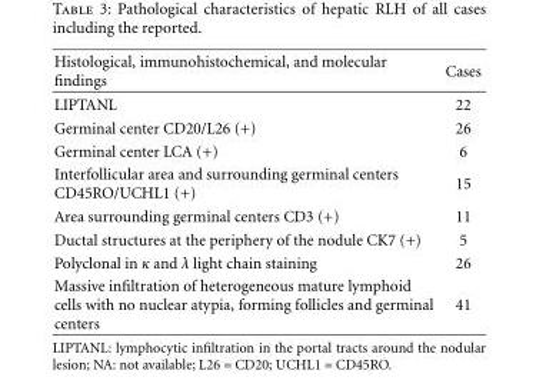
<table><thead><tr><td>Histological, immunohistochemical, and molecular findings</td><td>Cases</td></tr></thead><tbody><tr><td>LIPTANL</td><td>22</td></tr><tr><td>Germinal center CD20/L26 (+)</td><td>26</td></tr><tr><td>Germinal center LCA (+)</td><td>6</td></tr><tr><td>Interfollicular area and surrounding germinal centers CD45RO/UCHL1 (+)</td><td>15</td></tr><tr><td>Area surrounding germinal centers CD3 (+)</td><td>11</td></tr><tr><td>Ductal structures at the periphery of the nodule CK7 (+)</td><td>5</td></tr><tr><td>Polyclonal in κ and λ light chain staining</td><td>26</td></tr><tr><td>Massive infiltration of heterogeneous mature lymphoid cells with no nuclear atypia, forming follicles and germinal centers</td><td>41</td></tr></tbody></table>